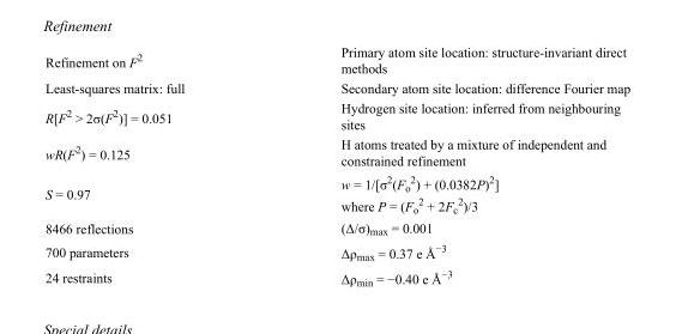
<table><tbody><tr><td>Refinement on F<sup>2</sup></td><td>Primary atom site location: structure-invariant direct methods</td></tr><tr><td>Least-squares matrix: full</td><td>Secondary atom site location: difference Fourier map</td></tr><tr><td>R[F<sup>2</sup> &gt; 2σ(F<sup>2</sup>)] = 0.051</td><td>Hydrogen site location: inferred from neighbouring sites</td></tr><tr><td>wR(F<sup>2</sup>) = 0.125</td><td>H atoms treated by a mixture of independent and constrained refinement</td></tr><tr><td>S = 0.97</td><td>w = 1/[σ<sup>2</sup>(F<sub>o</sub> <sup>2</sup>) + (0.0382P)<sup>2</sup>] where P = (F<sub>o</sub> <sup>2</sup> + 2F<sub>c</sub> <sup>2</sup>)/3</td></tr><tr><td>8466 reflections</td><td>(Δ/σ)<sub>max</sub> = 0.001</td></tr><tr><td>700 parameters</td><td>Δρ<sub>max</sub> = 0.37 e Å<sup>−3</sup></td></tr><tr><td>24 restraints</td><td>Δρ<sub>min</sub> = −0.40 e Å<sup>−3</sup></td></tr></tbody></table>